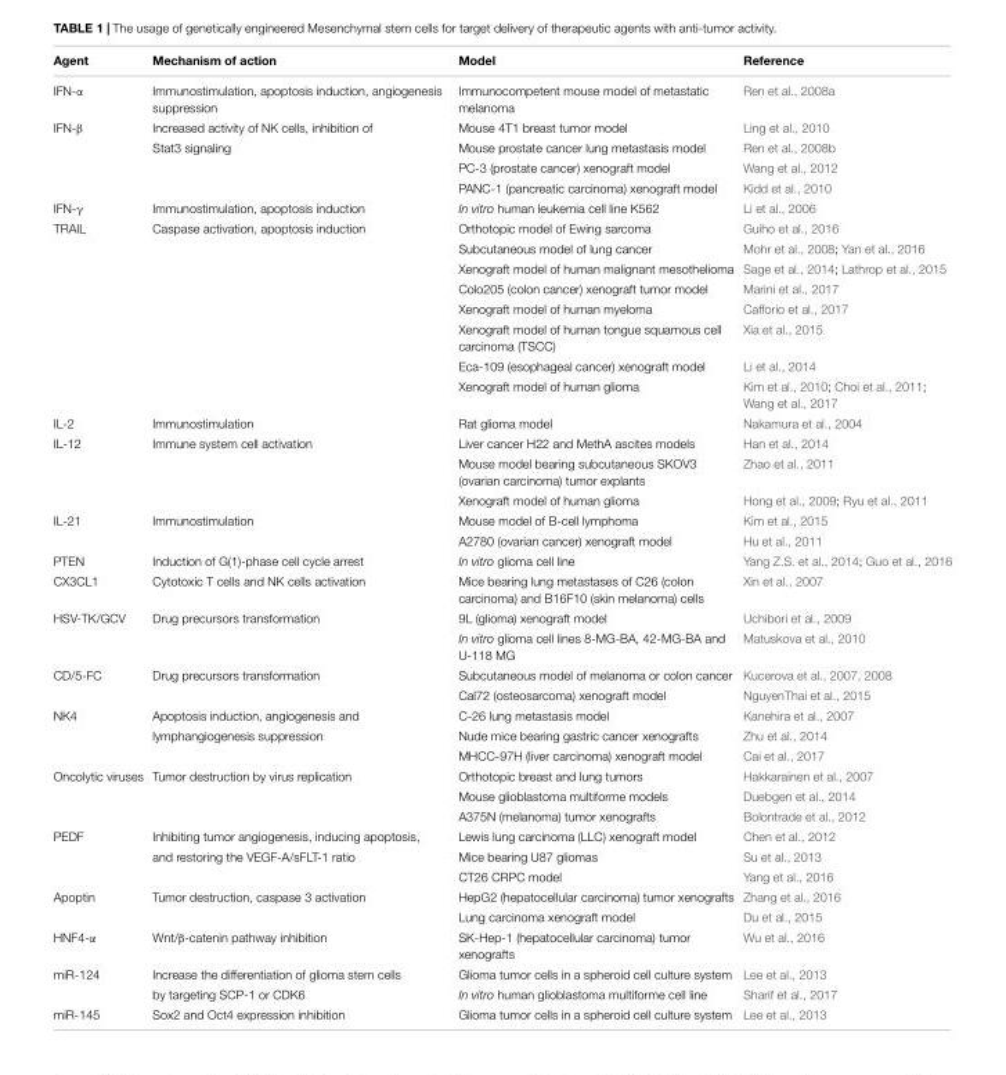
<table><thead><tr><td>Agent</td><td>Mechanism of action</td><td>Model</td><td>Reference</td></tr></thead><tbody><tr><td>IFN-α</td><td>Immunostimulation, apoptosis induction, angiogenesis suppression</td><td>Immunocompetent mouse model of metastatic melanoma</td><td>Ren et al., 2008a</td></tr><tr><td rowspan="4">IFN-β</td><td>Increased activity of NK cells, inhibition of</td><td>Mouse 4T1 breast tumor model</td><td>Ling et al., 2010</td></tr><tr><td>Stat3 signaling</td><td>Mouse prostate cancer lung metastasis model</td><td>Ren et al., 2008b</td></tr><tr><td></td><td>PC-3 (prostate cancer) xenograft model</td><td>Wang et al., 2012</td></tr><tr><td></td><td>PANC-1 (pancreatic carcinoma) xenograft model</td><td>Kidd et al., 2010</td></tr><tr><td>IFN-γ</td><td>Immunostimulation, apoptosis induction</td><td>In vitro human leukemia cell line K562</td><td>Li et al., 2006</td></tr><tr><td rowspan="8">TRAIL</td><td>Caspase activation, apoptosis induction</td><td>Orthotopic model of Ewing sarcoma</td><td>Guiho et al., 2016</td></tr><tr><td></td><td>Subcutaneous model of lung cancer</td><td>Mohr et al., 2008; Yan et al., 2016</td></tr><tr><td></td><td>Xenograft model of human malignant mesothelioma</td><td>Sage et al., 2014; Lathrop et al., 2015</td></tr><tr><td></td><td>Colo205 (colon cancer) xenograft tumor model</td><td>Marini et al., 2017</td></tr><tr><td></td><td>Xenograft model of human myeloma</td><td>Cafforio et al., 2017</td></tr><tr><td></td><td>Xenograft model of human tongue squamous cell carcinoma (TSCC)</td><td>Xia et al., 2015</td></tr><tr><td></td><td>Eca-109 (esophageal cancer) xenograft model</td><td>Li et al., 2014</td></tr><tr><td></td><td>Xenograft model of human glioma</td><td>Kim et al., 2010; Choi et al., 2011; Wang et al., 2017</td></tr><tr><td>IL-2</td><td>Immunostimulation</td><td>Rat glioma model</td><td>Nakamura et al., 2004</td></tr><tr><td rowspan="3">IL-12</td><td>Immune system cell activation</td><td>Liver cancer H22 and MethA ascites models</td><td>Han et al., 2014</td></tr><tr><td></td><td>Mouse model bearing subcutaneous SKOV3 (ovarian carcinoma) tumor explants</td><td>Zhao et al., 2011</td></tr><tr><td></td><td>Xenograft model of human glioma</td><td>Hong et al., 2009; Ryu et al., 2011</td></tr><tr><td rowspan="2">IL-21</td><td>Immunostimulation</td><td>Mouse model of B-cell lymphoma</td><td>Kim et al., 2015</td></tr><tr><td></td><td>A2780 (ovarian cancer) xenograft model</td><td>Hu et al., 2011</td></tr><tr><td>PTEN</td><td>Induction of G(1)-phase cell cycle arrest</td><td>In vitro glioma cell line</td><td>Yang Z.S. et al., 2014; Guo et al., 2016</td></tr><tr><td>CX3CL1</td><td>Cytotoxic T cells and NK cells activation</td><td>Mice bearing lung metastases of C26 (colon carcinoma) and B16F10 (skin melanoma) cells</td><td>Xin et al., 2007</td></tr><tr><td rowspan="2">HSV-TK/GCV</td><td>Drug precursors transformation</td><td>9L (glioma) xenograft model</td><td>Uchibori et al., 2009</td></tr><tr><td></td><td>In vitro glioma cell lines 8-MG-BA, 42-MG-BA and U-118 MG</td><td>Matuskova et al., 2010</td></tr><tr><td rowspan="2">CD/5-FC</td><td>Drug precursors transformation</td><td>Subcutaneous model of melanoma or colon cancer</td><td>Kucerova et al., 2007, 2008</td></tr><tr><td></td><td>Cal72 (osteosarcoma) xenograft model</td><td>NguyenThai et al., 2015</td></tr><tr><td rowspan="3">NK4</td><td>Apoptosis induction, angiogenesis and</td><td>C-26 lung metastasis model</td><td>Kanehira et al., 2007</td></tr><tr><td>lymphangiogenesis suppression</td><td>Nude mice bearing gastric cancer xenografts</td><td>Zhu et al., 2014</td></tr><tr><td></td><td>MHCC-97H (liver carcinoma) xenograft model</td><td>Cai et al., 2017</td></tr><tr><td rowspan="3">Oncolytic viruses</td><td>Tumor destruction by virus replication</td><td>Orthotopic breast and lung tumors</td><td>Hakkarainen et al., 2007</td></tr><tr><td></td><td>Mouse glioblastoma multiforme models</td><td>Duebgen et al., 2014</td></tr><tr><td></td><td>A375N (melanoma) tumor xenografts</td><td>Bolontrade et al., 2012</td></tr><tr><td rowspan="3">PEDF</td><td>Inhibiting tumor angiogenesis, inducing apoptosis,</td><td>Lewis lung carcinoma (LLC) xenograft model</td><td>Chen et al., 2012</td></tr><tr><td>and restoring the VEGF-A/sFLT-1 ratio</td><td>Mice bearing U87 gliomas</td><td>Su et al., 2013</td></tr><tr><td></td><td>CT26 CRPC model</td><td>Yang et al., 2016</td></tr><tr><td rowspan="2">Apoptin</td><td>Tumor destruction, caspase 3 activation</td><td>HepG2 (hepatocellular carcinoma) tumor xenografts</td><td>Zhang et al., 2016</td></tr><tr><td></td><td>Lung carcinoma xenograft model</td><td>Du et al., 2015</td></tr><tr><td>HNF4-α</td><td>Wnt/β-catenin pathway inhibition</td><td>SK-Hep-1 (hepatocellular carcinoma) tumor xenografts</td><td>Wu et al., 2016</td></tr><tr><td rowspan="2">miR-124</td><td>Increase the differentiation of glioma stem cells</td><td>Glioma tumor cells in a spheroid cell culture system</td><td>Lee et al., 2013</td></tr><tr><td>by targeting SCP-1 or CDK6</td><td>In vitro human glioblastoma multiforme cell line</td><td>Sharif et al., 2017</td></tr><tr><td>miR-145</td><td>Sox2 and Oct4 expression inhibition</td><td>Glioma tumor cells in a spheroid cell culture system</td><td>Lee et al., 2013</td></tr></tbody></table>